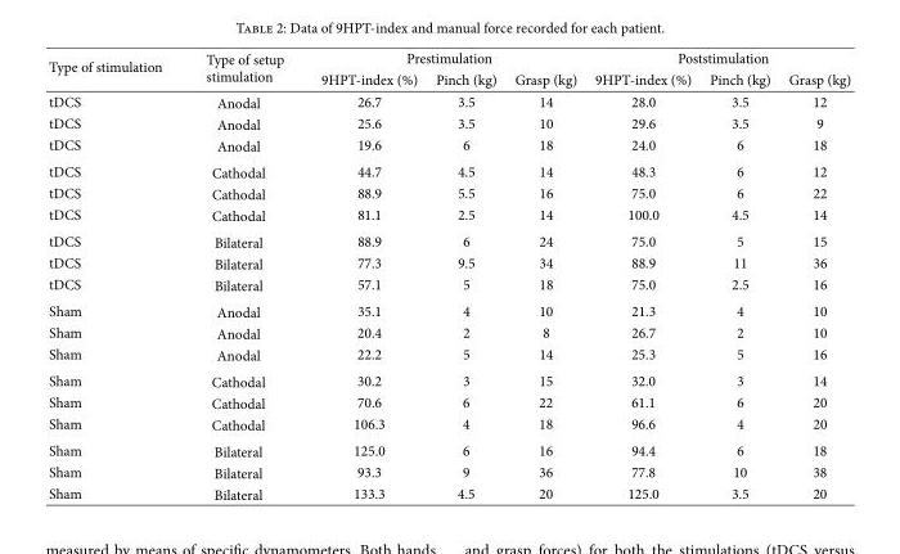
<table><thead><tr><td rowspan="2">Type of stimulation</td><td rowspan="2">Type of setup stimulation</td><td colspan="3">Prestimulation</td><td colspan="3">Poststimulation</td></tr><tr><td>9HPT-index (%)</td><td>Pinch (kg)</td><td>Grasp (kg)</td><td>9HPT-index (%)</td><td>Pinch (kg)</td><td>Grasp (kg)</td></tr></thead><tbody><tr><td>tDCS</td><td>Anodal</td><td>26.7</td><td>3.5</td><td>14</td><td>28.0</td><td>3.5</td><td>12</td></tr><tr><td>tDCS</td><td>Anodal</td><td>25.6</td><td>3.5</td><td>10</td><td>29.6</td><td>3.5</td><td>9</td></tr><tr><td>tDCS</td><td>Anodal</td><td>19.6</td><td>6</td><td>18</td><td>24.0</td><td>6</td><td>18</td></tr><tr><td>tDCS</td><td>Cathodal</td><td>44.7</td><td>4.5</td><td>14</td><td>48.3</td><td>6</td><td>12</td></tr><tr><td>tDCS</td><td>Cathodal</td><td>88.9</td><td>5.5</td><td>16</td><td>75.0</td><td>6</td><td>22</td></tr><tr><td>tDCS</td><td>Cathodal</td><td>81.1</td><td>2.5</td><td>14</td><td>100.0</td><td>4.5</td><td>14</td></tr><tr><td>tDCS</td><td>Bilateral</td><td>88.9</td><td>6</td><td>24</td><td>75.0</td><td>5</td><td>15</td></tr><tr><td>tDCS</td><td>Bilateral</td><td>77.3</td><td>9.5</td><td>34</td><td>88.9</td><td>11</td><td>36</td></tr><tr><td>tDCS</td><td>Bilateral</td><td>57.1</td><td>5</td><td>18</td><td>75.0</td><td>2.5</td><td>16</td></tr><tr><td>Sham</td><td>Anodal</td><td>35.1</td><td>4</td><td>10</td><td>21.3</td><td>4</td><td>10</td></tr><tr><td>Sham</td><td>Anodal</td><td>20.4</td><td>2</td><td>8</td><td>26.7</td><td>2</td><td>10</td></tr><tr><td>Sham</td><td>Anodal</td><td>22.2</td><td>5</td><td>14</td><td>25.3</td><td>5</td><td>16</td></tr><tr><td>Sham</td><td>Cathodal</td><td>30.2</td><td>3</td><td>15</td><td>32.0</td><td>3</td><td>14</td></tr><tr><td>Sham</td><td>Cathodal</td><td>70.6</td><td>6</td><td>22</td><td>61.1</td><td>6</td><td>20</td></tr><tr><td>Sham</td><td>Cathodal</td><td>106.3</td><td>4</td><td>18</td><td>96.6</td><td>4</td><td>20</td></tr><tr><td>Sham</td><td>Bilateral</td><td>125.0</td><td>6</td><td>16</td><td>94.4</td><td>6</td><td>18</td></tr><tr><td>Sham</td><td>Bilateral</td><td>93.3</td><td>9</td><td>36</td><td>77.8</td><td>10</td><td>38</td></tr><tr><td>Sham</td><td>Bilateral</td><td>133.3</td><td>4.5</td><td>20</td><td>125.0</td><td>3.5</td><td>20</td></tr></tbody></table>